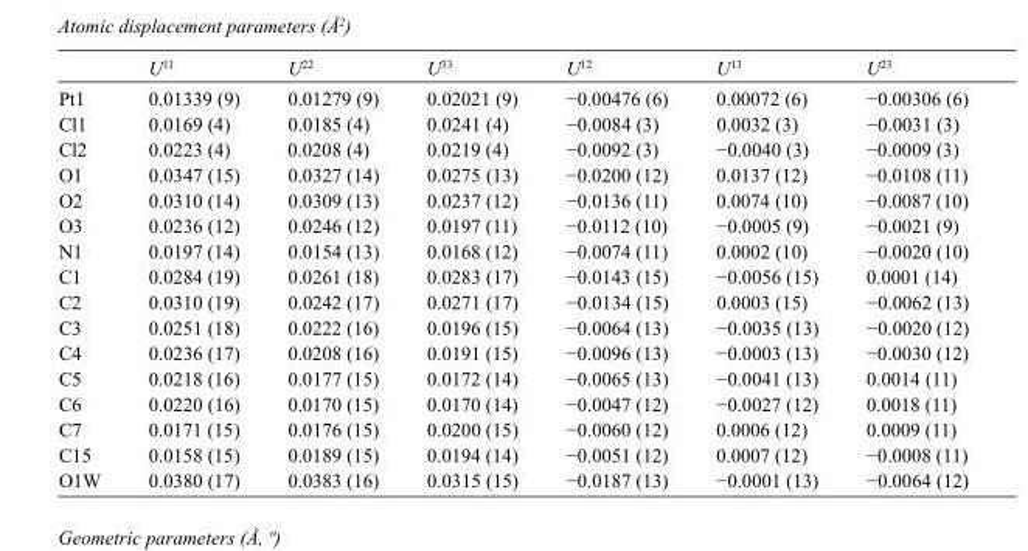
<table><thead><tr><td></td><td>U<sup>11</sup></td><td>U<sup>22</sup></td><td>U<sup>33</sup></td><td>U<sup>12</sup></td><td>U<sup>13</sup></td><td>U<sup>23</sup></td></tr></thead><tbody><tr><td>Pt1</td><td>0.01339 (9)</td><td>0.01279 (9)</td><td>0.02021 (9)</td><td>−0.00476 (6)</td><td>0.00072 (6)</td><td>−0.00306 (6)</td></tr><tr><td>Cl1</td><td>0.0169 (4)</td><td>0.0185 (4)</td><td>0.0241 (4)</td><td>−0.0084 (3)</td><td>0.0032 (3)</td><td>−0.0031 (3)</td></tr><tr><td>Cl2</td><td>0.0223 (4)</td><td>0.0208 (4)</td><td>0.0219 (4)</td><td>−0.0092 (3)</td><td>−0.0040 (3)</td><td>−0.0009 (3)</td></tr><tr><td>O1</td><td>0.0347 (15)</td><td>0.0327 (14)</td><td>0.0275 (13)</td><td>−0.0200 (12)</td><td>0.0137 (12)</td><td>−0.0108 (11)</td></tr><tr><td>O2</td><td>0.0310 (14)</td><td>0.0309 (13)</td><td>0.0237 (12)</td><td>−0.0136 (11)</td><td>0.0074 (10)</td><td>−0.0087 (10)</td></tr><tr><td>O3</td><td>0.0236 (12)</td><td>0.0246 (12)</td><td>0.0197 (11)</td><td>−0.0112 (10)</td><td>−0.0005 (9)</td><td>−0.0021 (9)</td></tr><tr><td>N1</td><td>0.0197 (14)</td><td>0.0154 (13)</td><td>0.0168 (12)</td><td>−0.0074 (11)</td><td>0.0002 (10)</td><td>−0.0020 (10)</td></tr><tr><td>C1</td><td>0.0284 (19)</td><td>0.0261 (18)</td><td>0.0283 (17)</td><td>−0.0143 (15)</td><td>−0.0056 (15)</td><td>0.0001 (14)</td></tr><tr><td>C2</td><td>0.0310 (19)</td><td>0.0242 (17)</td><td>0.0271 (17)</td><td>−0.0134 (15)</td><td>0.0003 (15)</td><td>−0.0062 (13)</td></tr><tr><td>C3</td><td>0.0251 (18)</td><td>0.0222 (16)</td><td>0.0196 (15)</td><td>−0.0064 (13)</td><td>−0.0035 (13)</td><td>−0.0020 (12)</td></tr><tr><td>C4</td><td>0.0236 (17)</td><td>0.0208 (16)</td><td>0.0191 (15)</td><td>−0.0096 (13)</td><td>−0.0003 (13)</td><td>−0.0030 (12)</td></tr><tr><td>C5</td><td>0.0218 (16)</td><td>0.0177 (15)</td><td>0.0172 (14)</td><td>−0.0065 (13)</td><td>−0.0041 (13)</td><td>0.0014 (11)</td></tr><tr><td>C6</td><td>0.0220 (16)</td><td>0.0170 (15)</td><td>0.0170 (14)</td><td>−0.0047 (12)</td><td>−0.0027 (12)</td><td>0.0018 (11)</td></tr><tr><td>C7</td><td>0.0171 (15)</td><td>0.0176 (15)</td><td>0.0200 (15)</td><td>−0.0060 (12)</td><td>0.0006 (12)</td><td>0.0009 (11)</td></tr><tr><td>C15</td><td>0.0158 (15)</td><td>0.0189 (15)</td><td>0.0194 (14)</td><td>−0.0051 (12)</td><td>0.0007 (12)</td><td>−0.0008 (11)</td></tr><tr><td>O1W</td><td>0.0380 (17)</td><td>0.0383 (16)</td><td>0.0315 (15)</td><td>−0.0187 (13)</td><td>−0.0001 (13)</td><td>−0.0064 (12)</td></tr></tbody></table>